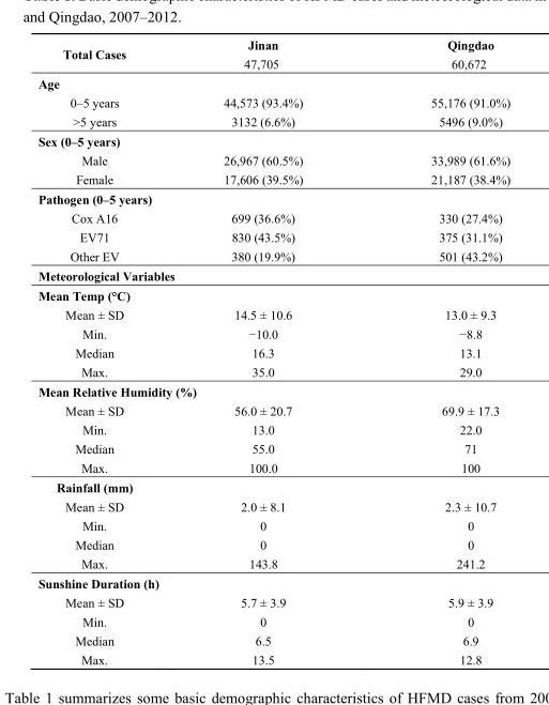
<table><tbody><tr><td rowspan="2">Total Cases</td><td>Jinan</td><td>Qingdao</td></tr><tr><td>47,705</td><td>60,672</td></tr><tr><td colspan="3">Age</td></tr><tr><td>0–5 years</td><td>44,573 (93.4%)</td><td>55,176 (91.0%)</td></tr><tr><td>&gt;5 years</td><td>3132 (6.6%)</td><td>5496 (9.0%)</td></tr><tr><td colspan="3">Sex (0–5 years)</td></tr><tr><td>Male</td><td>26,967 (60.5%)</td><td>33,989 (61.6%)</td></tr><tr><td>Female</td><td>17,606 (39.5%)</td><td>21,187 (38.4%)</td></tr><tr><td colspan="3">Pathogen (0–5 years)</td></tr><tr><td>Cox A16</td><td>699 (36.6%)</td><td>330 (27.4%)</td></tr><tr><td>EV71</td><td>830 (43.5%)</td><td>375 (31.1%)</td></tr><tr><td>Other EV</td><td>380 (19.9%)</td><td>501 (43.2%)</td></tr><tr><td colspan="3">Meteorological Variables</td></tr><tr><td colspan="3">Mean Temp (°C)</td></tr><tr><td>Mean ± SD</td><td>14.5 ± 10.6</td><td>13.0 ± 9.3</td></tr><tr><td>Min.</td><td>−10.0</td><td>−8.8</td></tr><tr><td>Median</td><td>16.3</td><td>13.1</td></tr><tr><td>Max.</td><td>35.0</td><td>29.0</td></tr><tr><td colspan="3">Mean Relative Humidity (%)</td></tr><tr><td>Mean ± SD</td><td>56.0 ± 20.7</td><td>69.9 ± 17.3</td></tr><tr><td>Min.</td><td>13.0</td><td>22.0</td></tr><tr><td>Median</td><td>55.0</td><td>71</td></tr><tr><td>Max.</td><td>100.0</td><td>100</td></tr><tr><td colspan="3">Rainfall (mm)</td></tr><tr><td>Mean ± SD</td><td>2.0 ± 8.1</td><td>2.3 ± 10.7</td></tr><tr><td>Min.</td><td>0</td><td>0</td></tr><tr><td>Median</td><td>0</td><td>0</td></tr><tr><td>Max.</td><td>143.8</td><td>241.2</td></tr><tr><td colspan="3">Sunshine Duration (h)</td></tr><tr><td>Mean ± SD</td><td>5.7 ± 3.9</td><td>5.9 ± 3.9</td></tr><tr><td>Min.</td><td>0</td><td>0</td></tr><tr><td>Median</td><td>6.5</td><td>6.9</td></tr><tr><td>Max.</td><td>13.5</td><td>12.8</td></tr></tbody></table>